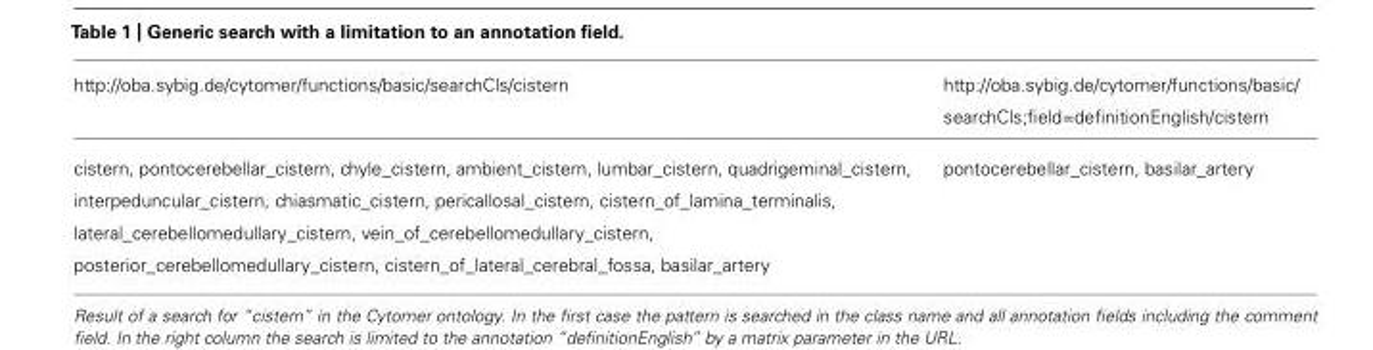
<table><thead><tr><td>http://oba.sybig.de/cytomer/functions/basic/searchCls/cistern</td><td>http://oba.sybig.de/cytomer/functions/basic/ searchCls;field=definitionEnglish/cistern</td></tr></thead><tbody><tr><td>cistern, pontocerebellar_cistern, chyle_cistern, ambient_cistern, lumbar_cistern, quadrigeminal_cistern, interpeduncular_cistern, chiasmatic_cistern, pericallosal_cistern, cistern_of_lamina_terminalis, lateral_cerebellomedullary_cistern, vein_of_cerebellomedullary_cistern, posterior_cerebellomedullary_cistern, cistern_of_lateral_cerebral_fossa, basilar_artery</td><td>pontocerebellar_cistern, basilar_artery</td></tr></tbody></table>